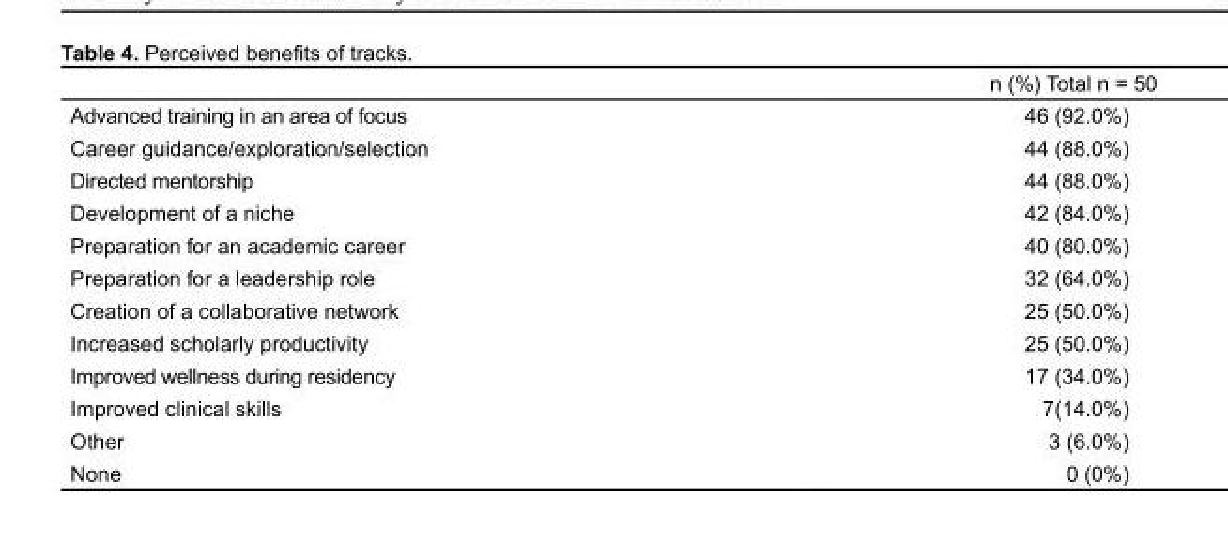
<table><thead><tr><td></td><td>n (%) Total n = 50</td></tr></thead><tbody><tr><td>Advanced training in an area of focus</td><td>46 (92.0%)</td></tr><tr><td>Career guidance/exploration/selection</td><td>44 (88.0%)</td></tr><tr><td>Directed mentorship</td><td>44 (88.0%)</td></tr><tr><td>Development of a niche</td><td>42 (84.0%)</td></tr><tr><td>Preparation for an academic career</td><td>40 (80.0%)</td></tr><tr><td>Preparation for a leadership role</td><td>32 (64.0%)</td></tr><tr><td>Creation of a collaborative network</td><td>25 (50.0%)</td></tr><tr><td>Increased scholarly productivity</td><td>25 (50.0%)</td></tr><tr><td>Improved wellness during residency</td><td>17 (34.0%)</td></tr><tr><td>Improved clinical skills</td><td>7(14.0%)</td></tr><tr><td>Other</td><td>3 (6.0%)</td></tr><tr><td>None</td><td>0 (0%)</td></tr></tbody></table>